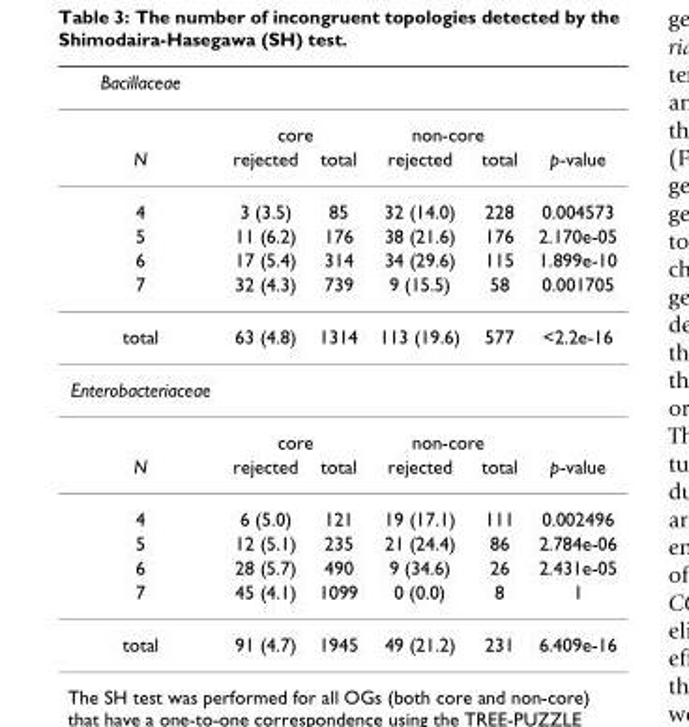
<table><thead><tr><td>Bacillaceae</td><td></td><td></td><td></td><td></td><td></td></tr></thead><tbody><tr><td></td><td colspan="2">core</td><td colspan="2">non-core</td><td></td></tr><tr><td>N</td><td>rejected</td><td>total</td><td>rejected</td><td>total</td><td>p-value</td></tr><tr><td>4</td><td>3 (3.5)</td><td>85</td><td>32 (14.0)</td><td>228</td><td>0.004573</td></tr><tr><td>5</td><td>11 (6.2)</td><td>176</td><td>38 (21.6)</td><td>176</td><td>2.170e-05</td></tr><tr><td>6</td><td>17 (5.4)</td><td>314</td><td>34 (29.6)</td><td>115</td><td>1.899e-10</td></tr><tr><td>7</td><td>32 (4.3)</td><td>739</td><td>9 (15.5)</td><td>58</td><td>0.001705</td></tr><tr><td>total</td><td>63 (4.8)</td><td>1314</td><td>113 (19.6)</td><td>577</td><td>&lt;2.2e-16</td></tr><tr><td colspan="6">Enterobacteriaceae</td></tr><tr><td></td><td colspan="2">core</td><td colspan="2">non-core</td><td></td></tr><tr><td>N</td><td>rejected</td><td>total</td><td>rejected</td><td>total</td><td>p-value</td></tr><tr><td>4</td><td>6 (5.0)</td><td>121</td><td>19 (17.1)</td><td>111</td><td>0.002496</td></tr><tr><td>5</td><td>12 (5.1)</td><td>235</td><td>21 (24.4)</td><td>86</td><td>2.784e-06</td></tr><tr><td>6</td><td>28 (5.7)</td><td>490</td><td>9 (34.6)</td><td>26</td><td>2.431e-05</td></tr><tr><td>7</td><td>45 (4.1)</td><td>1099</td><td>0 (0.0)</td><td>8</td><td>1</td></tr><tr><td>total</td><td>91 (4.7)</td><td>1945</td><td>49 (21.2)</td><td>231</td><td>6.409e-16</td></tr></tbody></table>